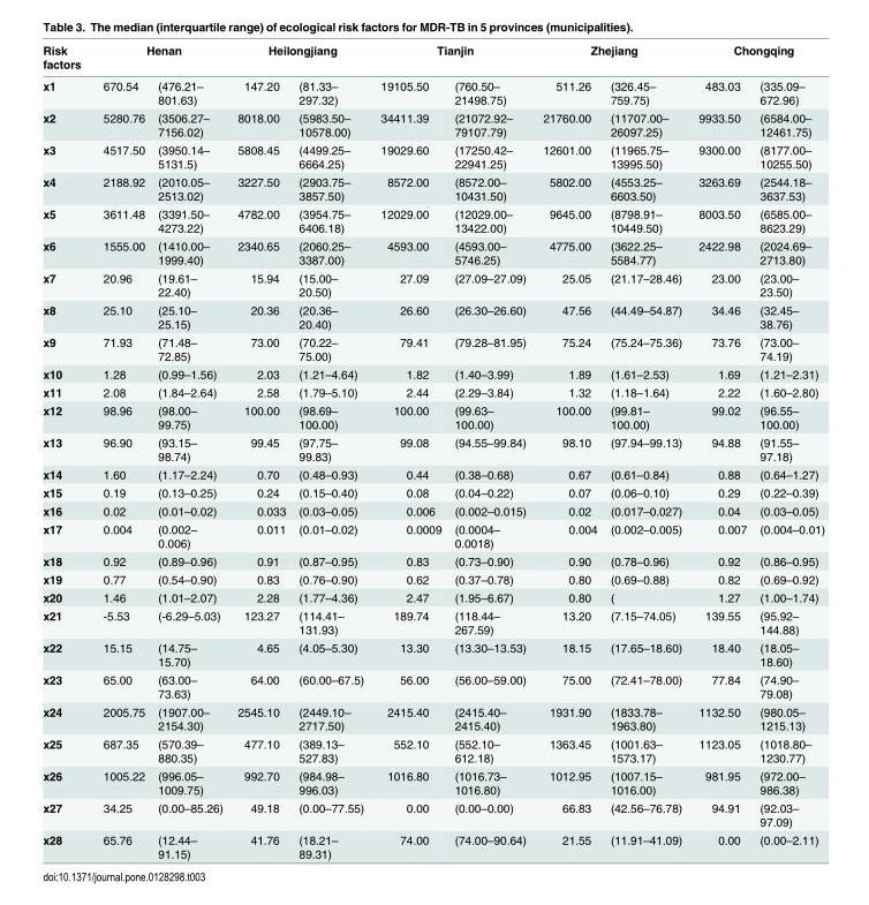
<table><thead><tr><td rowspan="2">Risk factors x1</td><td colspan="2">Henan</td><td colspan="2">Heilongjiang</td><td colspan="2">Tianjin</td><td colspan="2">Zhejiang</td><td colspan="2">Chongqing</td></tr><tr><td>670.54</td><td>(476.21– 801.63)</td><td>147.20</td><td>(81.33– 297.32)</td><td>19105.50</td><td>(760.50– 21498.75)</td><td>511.26</td><td>(326.45– 759.75)</td><td>483.03</td><td>(335.09– 672.96)</td></tr></thead><tbody><tr><td>x2</td><td>5280.76</td><td>(3506.27– 7156.02)</td><td>8018.00</td><td>(5983.50– 10578.00)</td><td>34411.39</td><td>(21072.92– 79107.79)</td><td>21760.00</td><td>(11707.00– 26097.25)</td><td>9933.50</td><td>(6584.00– 12461.75)</td></tr><tr><td>x3</td><td>4517.50</td><td>(3950.14– 5131.5)</td><td>5808.45</td><td>(4499.25– 6664.25)</td><td>19029.60</td><td>(17250.42– 22941.25)</td><td>12601.00</td><td>(11965.75– 13995.50)</td><td>9300.00</td><td>(8177.00– 10255.50)</td></tr><tr><td>x4</td><td>2188.92</td><td>(2010.05– 2513.02)</td><td>3227.50</td><td>(2903.75– 3857.50)</td><td>8572.00</td><td>(8572.00– 10431.50)</td><td>5802.00</td><td>(4553.25– 6603.50)</td><td>3263.69</td><td>(2544.18– 3637.53)</td></tr><tr><td>x5</td><td>3611.48</td><td>(3391.50– 4273.22)</td><td>4782.00</td><td>(3954.75– 6406.18)</td><td>12029.00</td><td>(12029.00– 13422.00)</td><td>9645.00</td><td>(8798.91– 10449.50)</td><td>8003.50</td><td>(6585.00– 8623.29)</td></tr><tr><td>x6</td><td>1555.00</td><td>(1410.00– 1999.40)</td><td>2340.65</td><td>(2060.25– 3387.00)</td><td>4593.00</td><td>(4593.00– 5746.25)</td><td>4775.00</td><td>(3622.25– 5584.77)</td><td>2422.98</td><td>(2024.69– 2713.80)</td></tr><tr><td>x7</td><td>20.96</td><td>(19.61– 22.40)</td><td>15.94</td><td>(15.00– 20.50)</td><td>27.09</td><td>(27.09–27.09)</td><td>25.05</td><td>(21.17–28.46)</td><td>23.00</td><td>(23.00– 23.50)</td></tr><tr><td>x8</td><td>25.10</td><td>(25.10– 25.15)</td><td>20.36</td><td>(20.36– 20.40)</td><td>26.60</td><td>(26.30–26.60)</td><td>47.56</td><td>(44.49–54.87)</td><td>34.46</td><td>(32.45– 38.76)</td></tr><tr><td>x9</td><td>71.93</td><td>(71.48– 72.85)</td><td>73.00</td><td>(70.22– 75.00)</td><td>79.41</td><td>(79.28–81.95)</td><td>75.24</td><td>(75.24–75.36)</td><td>73.76</td><td>(73.00– 74.19)</td></tr><tr><td>x10</td><td>1.28</td><td>(0.99–1.56)</td><td>2.03</td><td>(1.21–4.64)</td><td>1.82</td><td>(1.40–3.99)</td><td>1.89</td><td>(1.61–2.53)</td><td>1.69</td><td>(1.21–2.31)</td></tr><tr><td>x11</td><td>2.08</td><td>(1.84–2.64)</td><td>2.58</td><td>(1.79–5.10)</td><td>2.44</td><td>(2.29–3.84)</td><td>1.32</td><td>(1.18–1.64)</td><td>2.22</td><td>(1.60–2.80)</td></tr><tr><td>x12</td><td>98.96</td><td>(98.00– 99.75)</td><td>100.00</td><td>(98.69– 100.00)</td><td>100.00</td><td>(99.63– 100.00)</td><td>100.00</td><td>(99.81– 100.00)</td><td>99.02</td><td>(96.55– 100.00)</td></tr><tr><td>x13</td><td>96.90</td><td>(93.15– 98.74)</td><td>99.45</td><td>(97.75– 99.83)</td><td>99.08</td><td>(94.55–99.84)</td><td>98.10</td><td>(97.94–99.13)</td><td>94.88</td><td>(91.55– 97.18)</td></tr><tr><td>x14</td><td>1.60</td><td>(1.17–2.24)</td><td>0.70</td><td>(0.48–0.93)</td><td>0.44</td><td>(0.38–0.68)</td><td>0.67</td><td>(0.61–0.84)</td><td>0.88</td><td>(0.64–1.27)</td></tr><tr><td>x15</td><td>0.19</td><td>(0.13–0.25)</td><td>0.24</td><td>(0.15–0.40)</td><td>0.08</td><td>(0.04–0.22)</td><td>0.07</td><td>(0.06–0.10)</td><td>0.29</td><td>(0.22–0.39)</td></tr><tr><td>x16</td><td>0.02</td><td>(0.01–0.02)</td><td>0.033</td><td>(0.03–0.05)</td><td>0.006</td><td>(0.002–0.015)</td><td>0.02</td><td>(0.017–0.027)</td><td>0.04</td><td>(0.03–0.05)</td></tr><tr><td>x17</td><td>0.004</td><td>(0.002– 0.006)</td><td>0.011</td><td>(0.01–0.02)</td><td>0.0009</td><td>(0.0004– 0.0018)</td><td>0.004</td><td>(0.002–0.005)</td><td>0.007</td><td>(0.004–0.01)</td></tr><tr><td>x18</td><td>0.92</td><td>(0.89–0.96)</td><td>0.91</td><td>(0.87–0.95)</td><td>0.83</td><td>(0.73–0.90)</td><td>0.90</td><td>(0.78–0.96)</td><td>0.92</td><td>(0.86–0.95)</td></tr><tr><td>x19</td><td>0.77</td><td>(0.54–0.90)</td><td>0.83</td><td>(0.76–0.90)</td><td>0.62</td><td>(0.37–0.78)</td><td>0.80</td><td>(0.69–0.88)</td><td>0.82</td><td>(0.69–0.92)</td></tr><tr><td>x20</td><td>1.46</td><td>(1.01–2.07)</td><td>2.28</td><td>(1.77–4.36)</td><td>2.47</td><td>(1.95–6.67)</td><td>0.80</td><td>(</td><td>1.27</td><td>(1.00–1.74)</td></tr><tr><td>x21</td><td>-5.53</td><td>(-6.29–5.03)</td><td>123.27</td><td>(114.41– 131.93)</td><td>189.74</td><td>(118.44– 267.59)</td><td>13.20</td><td>(7.15–74.05)</td><td>139.55</td><td>(95.92– 144.88)</td></tr><tr><td>x22</td><td>15.15</td><td>(14.75– 15.70)</td><td>4.65</td><td>(4.05–5.30)</td><td>13.30</td><td>(13.30–13.53)</td><td>18.15</td><td>(17.65–18.60)</td><td>18.40</td><td>(18.05– 18.60)</td></tr><tr><td>x23</td><td>65.00</td><td>(63.00– 73.63)</td><td>64.00</td><td>(60.00–67.5)</td><td>56.00</td><td>(56.00–59.00)</td><td>75.00</td><td>(72.41–78.00)</td><td>77.84</td><td>(74.90– 79.08)</td></tr><tr><td>x24</td><td>2005.75</td><td>(1907.00– 2154.30)</td><td>2545.10</td><td>(2449.10– 2717.50)</td><td>2415.40</td><td>(2415.40– 2415.40)</td><td>1931.90</td><td>(1833.78– 1963.80)</td><td>1132.50</td><td>(980.05– 1215.13)</td></tr><tr><td>x25</td><td>687.35</td><td>(570.39– 880.35)</td><td>477.10</td><td>(389.13– 527.83)</td><td>552.10</td><td>(552.10– 612.18)</td><td>1363.45</td><td>(1001.63– 1573.17)</td><td>1123.05</td><td>(1018.80– 1230.77)</td></tr><tr><td>x26</td><td>1005.22</td><td>(996.05– 1009.75)</td><td>992.70</td><td>(984.98– 996.03)</td><td>1016.80</td><td>(1016.73– 1016.80)</td><td>1012.95</td><td>(1007.15– 1016.00)</td><td>981.95</td><td>(972.00– 986.38)</td></tr><tr><td>x27</td><td>34.25</td><td>(0.00–85.26)</td><td>49.18</td><td>(0.00–77.55)</td><td>0.00</td><td>(0.00–0.00)</td><td>66.83</td><td>(42.56–76.78)</td><td>94.91</td><td>(92.03– 97.09)</td></tr><tr><td>x28</td><td>65.76</td><td>(12.44– 91.15)</td><td>41.76</td><td>(18.21– 89.31)</td><td>74.00</td><td>(74.00–90.64)</td><td>21.55</td><td>(11.91–41.09)</td><td>0.00</td><td>(0.00–2.11)</td></tr></tbody></table>